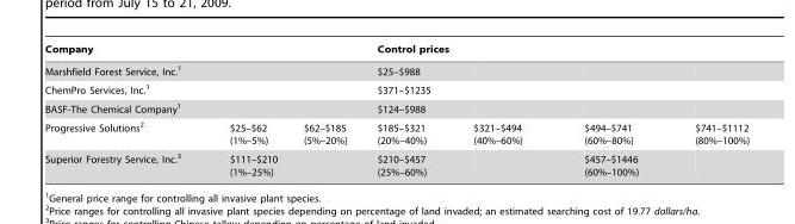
<table><thead><tr><td>Company</td><td></td><td></td><td>Control prices</td><td></td><td></td><td></td></tr></thead><tbody><tr><td>Marshfield Forest Service, Inc.<sup>1</sup></td><td></td><td></td><td>$25–$988</td><td></td><td></td><td></td></tr><tr><td>ChemPro Services, Inc.<sup>1</sup></td><td></td><td></td><td>$371–$1235</td><td></td><td></td><td></td></tr><tr><td>BASF-The Chemical Company<sup>1</sup></td><td></td><td></td><td>$124–$988</td><td></td><td></td><td></td></tr><tr><td>Progressive Solutions<sup>2</sup></td><td>$25–$62 (1%–5%)</td><td>$62–$185 (5%–20%)</td><td>$185–$321 (20%–40%)</td><td>$321–$494 (40%–60%)</td><td>$494–$741 (60%–80%)</td><td>$741–$1112 (80%–100%)</td></tr><tr><td>Superior Forestry Service, Inc.<sup>3</sup></td><td>$111–$210 (1%–25%)</td><td></td><td>$210–$457 (25%–60%)</td><td></td><td>$457–$1446 (60%–100%)</td><td></td></tr></tbody></table>